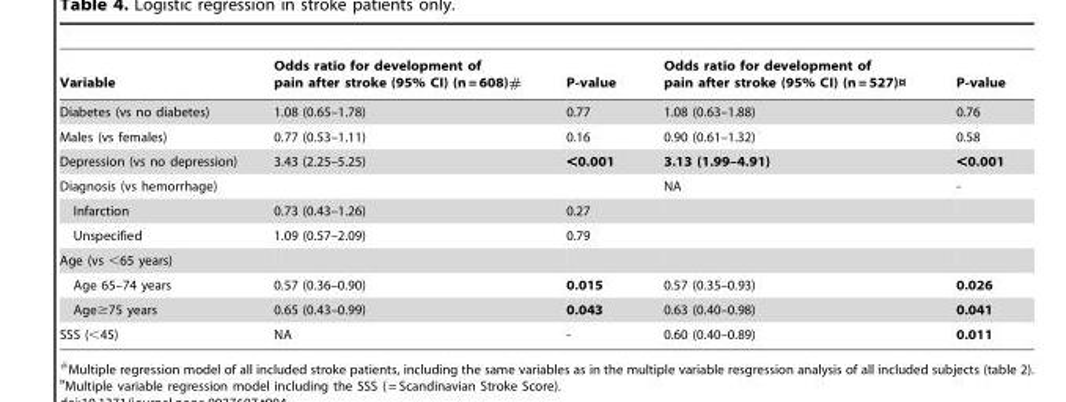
<table><thead><tr><td>Variable</td><td>Odds ratio for development of pain after stroke (95% CI) (n = 608)#</td><td>P-value</td><td>Odds ratio for development of pain after stroke (95% CI) (n = 527)¤</td><td>P-value</td></tr></thead><tbody><tr><td>Diabetes (vs no diabetes)</td><td>1.08 (0.65–1.78)</td><td>0.77</td><td>1.08 (0.63–1.88)</td><td>0.76</td></tr><tr><td>Males (vs females)</td><td>0.77 (0.53–1.11)</td><td>0.16</td><td>0.90 (0.61–1.32)</td><td>0.58</td></tr><tr><td>Depression (vs no depression)</td><td>3.43 (2.25–5.25)</td><td>&lt;0.001</td><td>3.13 (1.99–4.91)</td><td>&lt;0.001</td></tr><tr><td>Diagnosis (vs hemorrhage)</td><td></td><td></td><td>NA</td><td>-</td></tr><tr><td>Infarction</td><td>0.73 (0.43–1.26)</td><td>0.27</td><td></td><td></td></tr><tr><td>Unspecified</td><td>1.09 (0.57–2.09)</td><td>0.79</td><td></td><td></td></tr><tr><td colspan="5">Age (vs &lt;65 years)</td></tr><tr><td>Age 65–74 years</td><td>0.57 (0.36–0.90)</td><td>0.015</td><td>0.57 (0.35–0.93)</td><td>0.026</td></tr><tr><td>Age≥75 years</td><td>0.65 (0.43–0.99)</td><td>0.043</td><td>0.63 (0.40–0.98)</td><td>0.041</td></tr><tr><td>SSS (&lt;45)</td><td>NA</td><td>-</td><td>0.60 (0.40–0.89)</td><td>0.011</td></tr></tbody></table>